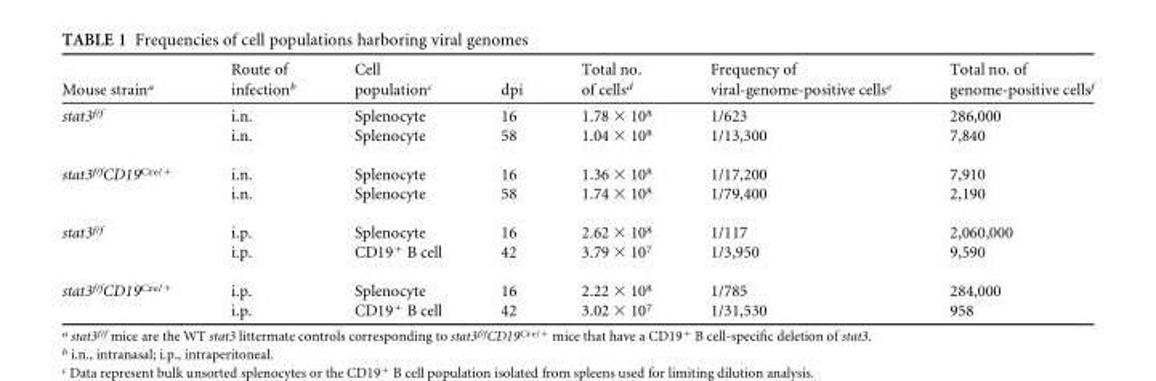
<table><thead><tr><td>Mouse strain<sup>a</sup></td><td>Route of infection<sup>b</sup></td><td>Cell population<sup>c</sup></td><td>dpi</td><td>Total no. of cells<sup>d</sup></td><td>Frequency of viral-genome-positive cells<sup>e</sup></td><td>Total no. of genome-positive cells<sup>f</sup></td></tr></thead><tbody><tr><td rowspan="2">stat3<sup>f/f</sup></td><td>i.n.</td><td>Splenocyte</td><td>16</td><td>1.78 × 10<sup>8</sup></td><td>1/623</td><td>286,000</td></tr><tr><td>i.n.</td><td>Splenocyte</td><td>58</td><td>1.04 × 10<sup>8</sup></td><td>1/13,300</td><td>7,840</td></tr><tr><td rowspan="2">stat3<sup>f/f</sup>CD19<sup>Cre/+</sup></td><td>i.n.</td><td>Splenocyte</td><td>16</td><td>1.36 × 10<sup>8</sup></td><td>1/17,200</td><td>7,910</td></tr><tr><td>i.n.</td><td>Splenocyte</td><td>58</td><td>1.74 × 10<sup>8</sup></td><td>1/79,400</td><td>2,190</td></tr><tr><td rowspan="2">stat3<sup>f/f</sup></td><td>i.p.</td><td>Splenocyte</td><td>16</td><td>2.62 × 10<sup>8</sup></td><td>1/117</td><td>2,060,000</td></tr><tr><td>i.p.</td><td>CD19<sup>+</sup> B cell</td><td>42</td><td>3.79 × 10<sup>7</sup></td><td>1/3,950</td><td>9,590</td></tr><tr><td rowspan="2">stat3<sup>f/f</sup>CD19<sup>Cre/+</sup></td><td>i.p.</td><td>Splenocyte</td><td>16</td><td>2.22 × 10<sup>8</sup></td><td>1/785</td><td>284,000</td></tr><tr><td>i.p.</td><td>CD19<sup>+</sup> B cell</td><td>42</td><td>3.02 × 10<sup>7</sup></td><td>1/31,530</td><td>958</td></tr></tbody></table>